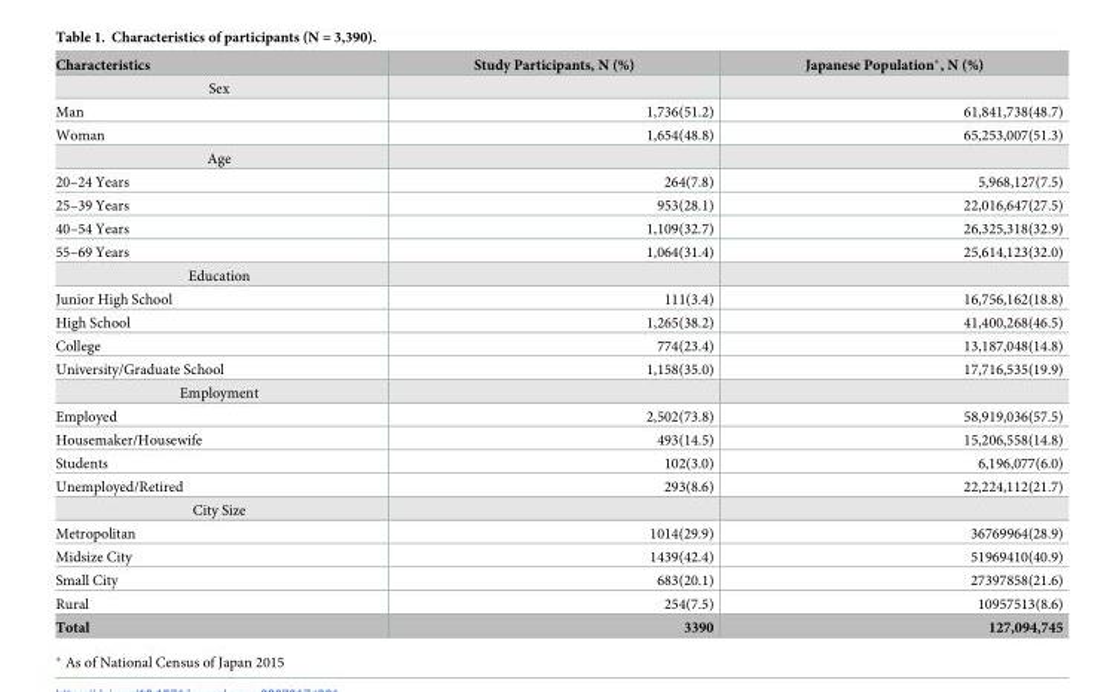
<table><thead><tr><td>Characteristics</td><td>Study Participants, N (%)</td><td>Japanese Population*, N (%)</td></tr></thead><tbody><tr><td colspan="3">Sex</td></tr><tr><td>Man</td><td>1,736(51.2)</td><td>61,841,738(48.7)</td></tr><tr><td>Woman</td><td>1,654(48.8)</td><td>65,253,007(51.3)</td></tr><tr><td colspan="3">Age</td></tr><tr><td>20–24 Years</td><td>264(7.8)</td><td>5,968,127(7.5)</td></tr><tr><td>25–39 Years</td><td>953(28.1)</td><td>22,016,647(27.5)</td></tr><tr><td>40–54 Years</td><td>1,109(32.7)</td><td>26,325,318(32.9)</td></tr><tr><td>55–69 Years</td><td>1,064(31.4)</td><td>25,614,123(32.0)</td></tr><tr><td colspan="3">Education</td></tr><tr><td>Junior High School</td><td>111(3.4)</td><td>16,756,162(18.8)</td></tr><tr><td>High School</td><td>1,265(38.2)</td><td>41,400,268(46.5)</td></tr><tr><td>College</td><td>774(23.4)</td><td>13,187,048(14.8)</td></tr><tr><td>University/Graduate School</td><td>1,158(35.0)</td><td>17,716,535(19.9)</td></tr><tr><td colspan="3">Employment</td></tr><tr><td>Employed</td><td>2,502(73.8)</td><td>58,919,036(57.5)</td></tr><tr><td>Housemaker/Housewife</td><td>493(14.5)</td><td>15,206,558(14.8)</td></tr><tr><td>Students</td><td>102(3.0)</td><td>6,196,077(6.0)</td></tr><tr><td>Unemployed/Retired</td><td>293(8.6)</td><td>22,224,112(21.7)</td></tr><tr><td colspan="3">City Size</td></tr><tr><td>Metropolitan</td><td>1014(29.9)</td><td>36769964(28.9)</td></tr><tr><td>Midsize City</td><td>1439(42.4)</td><td>51969410(40.9)</td></tr><tr><td>Small City</td><td>683(20.1)</td><td>27397858(21.6)</td></tr><tr><td>Rural</td><td>254(7.5)</td><td>10957513(8.6)</td></tr><tr><td>Total</td><td>3390</td><td>127,094,745</td></tr></tbody></table>